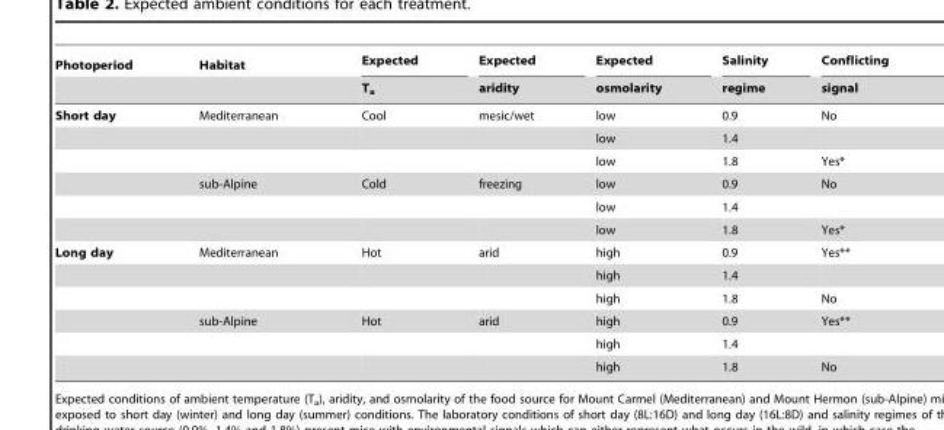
<table><thead><tr><td rowspan="2">Photoperiod</td><td rowspan="2">Habitat</td><td rowspan="2">Expected T<sub>a</sub></td><td rowspan="2">Expected aridity</td><td rowspan="2">Expected osmolarity</td><td rowspan="2">Salinity regime</td><td rowspan="2">Conflicting signal</td></tr><tr></tr></thead><tbody><tr><td rowspan="6">Short day</td><td>Mediterranean</td><td>Cool</td><td>mesic/wet</td><td>low</td><td>0.9</td><td>No</td></tr><tr><td></td><td></td><td></td><td>low</td><td>1.4</td><td></td></tr><tr><td></td><td></td><td></td><td>low</td><td>1.8</td><td>Yes*</td></tr><tr><td>sub-Alpine</td><td>Cold</td><td>freezing</td><td>low</td><td>0.9</td><td>No</td></tr><tr><td></td><td></td><td></td><td>low</td><td>1.4</td><td></td></tr><tr><td></td><td></td><td></td><td>low</td><td>1.8</td><td>Yes*</td></tr><tr><td rowspan="6">Long day</td><td>Mediterranean</td><td>Hot</td><td>arid</td><td>high</td><td>0.9</td><td>Yes**</td></tr><tr><td></td><td></td><td></td><td>high</td><td>1.4</td><td></td></tr><tr><td></td><td></td><td></td><td>high</td><td>1.8</td><td>No</td></tr><tr><td>sub-Alpine</td><td>Hot</td><td>arid</td><td>high</td><td>0.9</td><td>Yes**</td></tr><tr><td></td><td></td><td></td><td>high</td><td>1.4</td><td></td></tr><tr><td></td><td></td><td></td><td>high</td><td>1.8</td><td>No</td></tr></tbody></table>